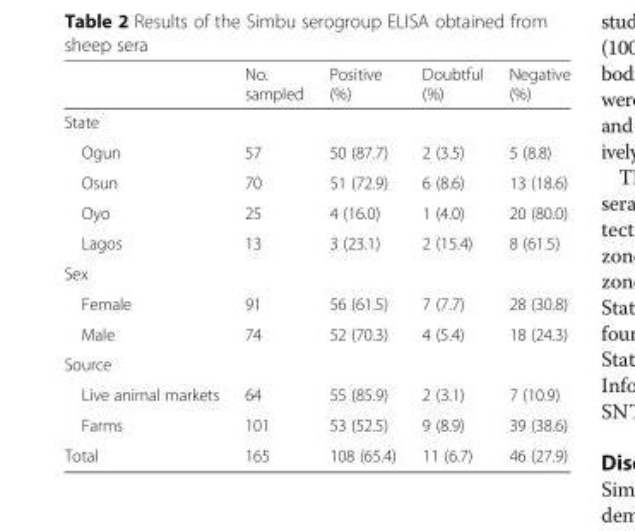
<table><thead><tr><td></td><td>No. sampled</td><td>Positive (%)</td><td>Doubtful (%)</td><td>Negative (%)</td></tr></thead><tbody><tr><td colspan="5">State</td></tr><tr><td>Ogun</td><td>57</td><td>50 (87.7)</td><td>2 (3.5)</td><td>5 (8.8)</td></tr><tr><td>Osun</td><td>70</td><td>51 (72.9)</td><td>6 (8.6)</td><td>13 (18.6)</td></tr><tr><td>Oyo</td><td>25</td><td>4 (16.0)</td><td>1 (4.0)</td><td>20 (80.0)</td></tr><tr><td>Lagos</td><td>13</td><td>3 (23.1)</td><td>2 (15.4)</td><td>8 (61.5)</td></tr><tr><td colspan="5">Sex</td></tr><tr><td>Female</td><td>91</td><td>56 (61.5)</td><td>7 (7.7)</td><td>28 (30.8)</td></tr><tr><td>Male</td><td>74</td><td>52 (70.3)</td><td>4 (5.4)</td><td>18 (24.3)</td></tr><tr><td colspan="5">Source</td></tr><tr><td>Live animal markets</td><td>64</td><td>55 (85.9)</td><td>2 (3.1)</td><td>7 (10.9)</td></tr><tr><td>Farms</td><td>101</td><td>53 (52.5)</td><td>9 (8.9)</td><td>39 (38.6)</td></tr><tr><td>Total</td><td>165</td><td>108 (65.4)</td><td>11 (6.7)</td><td>46 (27.9)</td></tr></tbody></table>